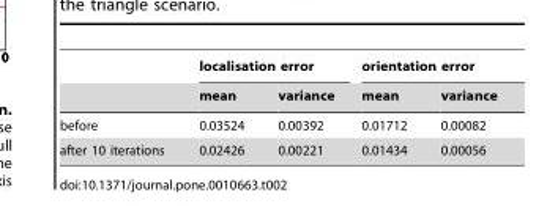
<table><thead><tr><td rowspan="2"></td><td colspan="2">localisation error</td><td colspan="2">orientation error</td></tr><tr><td>mean</td><td>variance</td><td>mean</td><td>variance</td></tr></thead><tbody><tr><td>before</td><td>0.03524</td><td>0.00392</td><td>0.01712</td><td>0.00082</td></tr><tr><td>after 10 iterations</td><td>0.02426</td><td>0.00221</td><td>0.01434</td><td>0.00056</td></tr></tbody></table>